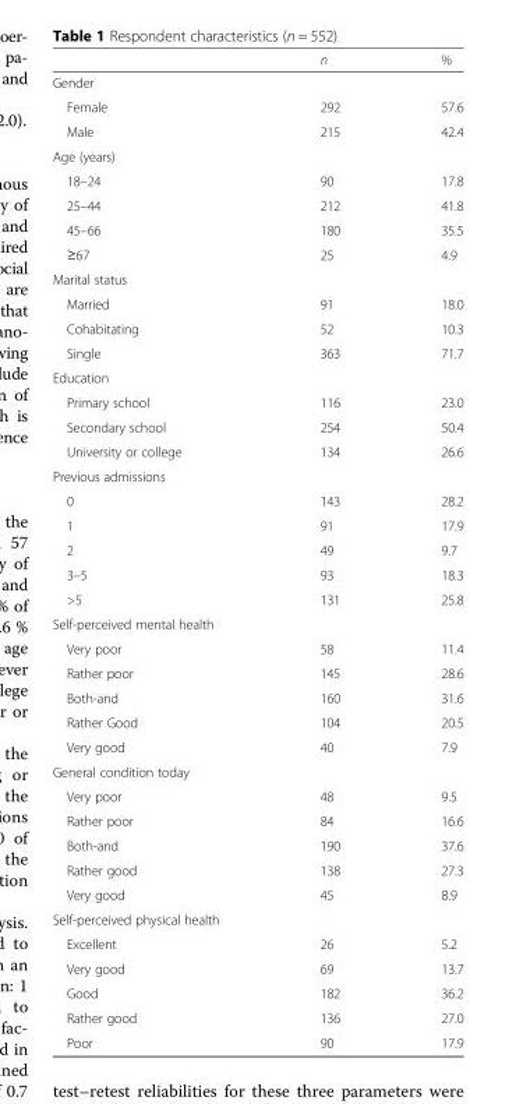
<table><thead><tr><td></td><td>n</td><td>%</td></tr></thead><tbody><tr><td colspan="3">Gender</td></tr><tr><td>Female</td><td>292</td><td>57.6</td></tr><tr><td>Male</td><td>215</td><td>42.4</td></tr><tr><td colspan="3">Age (years)</td></tr><tr><td>18–24</td><td>90</td><td>17.8</td></tr><tr><td>25–44</td><td>212</td><td>41.8</td></tr><tr><td>45–66</td><td>180</td><td>35.5</td></tr><tr><td>≥67</td><td>25</td><td>4.9</td></tr><tr><td colspan="3">Marital status</td></tr><tr><td>Married</td><td>91</td><td>18.0</td></tr><tr><td>Cohabitating</td><td>52</td><td>10.3</td></tr><tr><td>Single</td><td>363</td><td>71.7</td></tr><tr><td colspan="3">Education</td></tr><tr><td>Primary school</td><td>116</td><td>23.0</td></tr><tr><td>Secondary school</td><td>254</td><td>50.4</td></tr><tr><td>University or college</td><td>134</td><td>26.6</td></tr><tr><td colspan="3">Previous admissions</td></tr><tr><td>0</td><td>143</td><td>28.2</td></tr><tr><td>1</td><td>91</td><td>17.9</td></tr><tr><td>2</td><td>49</td><td>9.7</td></tr><tr><td>3–5</td><td>93</td><td>18.3</td></tr><tr><td>&gt;5</td><td>131</td><td>25.8</td></tr><tr><td colspan="3">Self-perceived mental health</td></tr><tr><td>Very poor</td><td>58</td><td>11.4</td></tr><tr><td>Rather poor</td><td>145</td><td>28.6</td></tr><tr><td>Both-and</td><td>160</td><td>31.6</td></tr><tr><td>Rather Good</td><td>104</td><td>20.5</td></tr><tr><td>Very good</td><td>40</td><td>7.9</td></tr><tr><td colspan="3">General condition today</td></tr><tr><td>Very poor</td><td>48</td><td>9.5</td></tr><tr><td>Rather poor</td><td>84</td><td>16.6</td></tr><tr><td>Both-and</td><td>190</td><td>37.6</td></tr><tr><td>Rather good</td><td>138</td><td>27.3</td></tr><tr><td>Very good</td><td>45</td><td>8.9</td></tr><tr><td colspan="3">Self-perceived physical health</td></tr><tr><td>Excellent</td><td>26</td><td>5.2</td></tr><tr><td>Very good</td><td>69</td><td>13.7</td></tr><tr><td>Good</td><td>182</td><td>36.2</td></tr><tr><td>Rather good</td><td>136</td><td>27.0</td></tr><tr><td>Poor</td><td>90</td><td>17.9</td></tr></tbody></table>